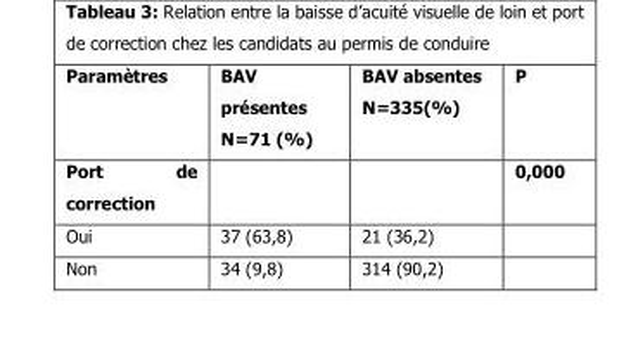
<table><thead><tr><td>Paramètres</td><td>BAV présentes N=71 (%)</td><td>BAV absentes N=335(%)</td><td>P</td></tr></thead><tbody><tr><td>Port de correction</td><td></td><td></td><td>0,000</td></tr><tr><td>Oui</td><td>37 (63,8)</td><td>21 (36,2)</td><td></td></tr><tr><td>Non</td><td>34 (9,8)</td><td>314 (90,2)</td><td></td></tr></tbody></table>